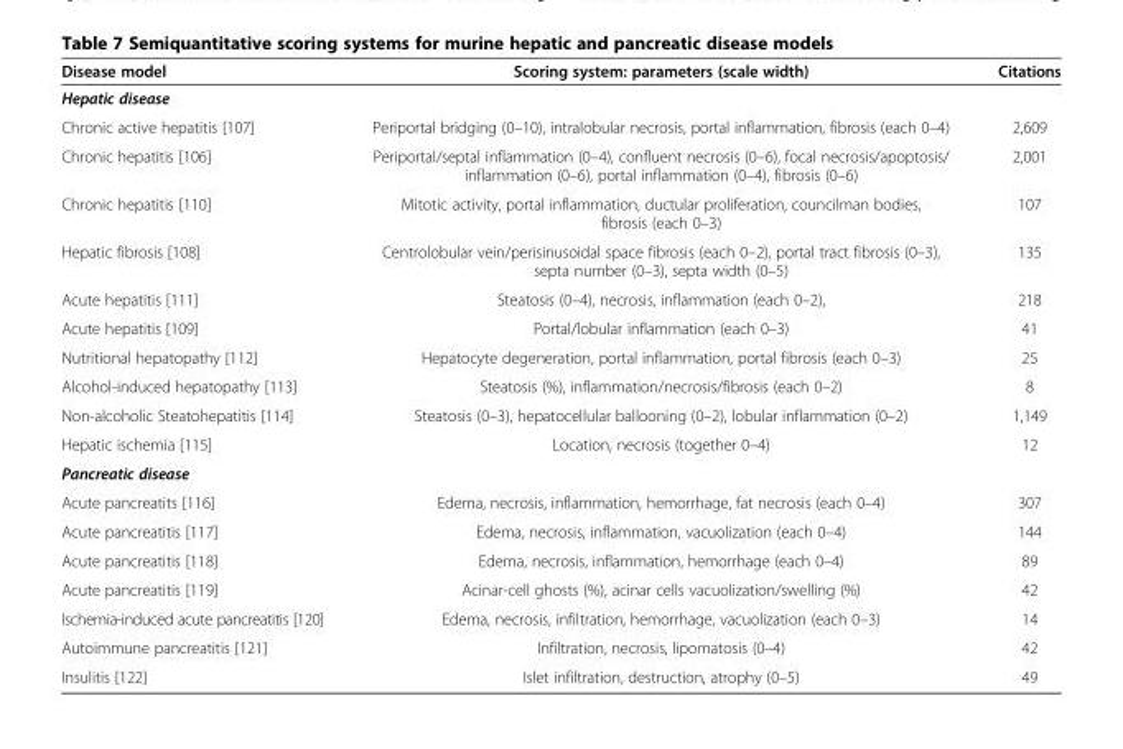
<table><thead><tr><td>Disease model</td><td>Scoring system: parameters (scale width)</td><td>Citations</td></tr></thead><tbody><tr><td colspan="3">Hepatic disease</td></tr><tr><td>Chronic active hepatitis [107]</td><td>Periportal bridging (0–10), intralobular necrosis, portal inflammation, fibrosis (each 0–4)</td><td>2,609</td></tr><tr><td>Chronic hepatitis [106]</td><td>Periportal/septal inflammation (0–4), confluent necrosis (0–6), focal necrosis/apoptosis/ inflammation (0–6), portal inflammation (0–4), fibrosis (0–6)</td><td>2,001</td></tr><tr><td>Chronic hepatitis [110]</td><td>Mitotic activity, portal inflammation, ductular proliferation, councilman bodies, fibrosis (each 0–3)</td><td>107</td></tr><tr><td>Hepatic fibrosis [108]</td><td>Centrolobular vein/perisinusoidal space fibrosis (each 0–2), portal tract fibrosis (0–3), septa number (0–3), septa width (0–5)</td><td>135</td></tr><tr><td>Acute hepatitis [111]</td><td>Steatosis (0–4), necrosis, inflammation (each 0–2),</td><td>218</td></tr><tr><td>Acute hepatitis [109]</td><td>Portal/lobular inflammation (each 0–3)</td><td>41</td></tr><tr><td>Nutritional hepatopathy [112]</td><td>Hepatocyte degeneration, portal inflammation, portal fibrosis (each 0–3)</td><td>25</td></tr><tr><td>Alcohol-induced hepatopathy [113]</td><td>Steatosis (%), inflammation/necrosis/fibrosis (each 0–2)</td><td>8</td></tr><tr><td>Non-alcoholic Steatohepatitis [114]</td><td>Steatosis (0–3), hepatocellular ballooning (0–2), lobular inflammation (0–2)</td><td>1,149</td></tr><tr><td>Hepatic ischemia [115]</td><td>Location, necrosis (together 0–4)</td><td>12</td></tr><tr><td colspan="3">Pancreatic disease</td></tr><tr><td>Acute pancreatits [116]</td><td>Edema, necrosis, inflammation, hemorrhage, fat necrosis (each 0–4)</td><td>307</td></tr><tr><td>Acute pancreatitis [117]</td><td>Edema, necrosis, inflammation, vacuolization (each 0–4)</td><td>144</td></tr><tr><td>Acute pancreatitis [118]</td><td>Edema, necrosis, inflammation, hemorrhage (each 0–4)</td><td>89</td></tr><tr><td>Acute pancreatitis [119]</td><td>Acinar-cell ghosts (%), acinar cells vacuolization/swelling (%)</td><td>42</td></tr><tr><td>Ischemia-induced acute pancreatitis [120]</td><td>Edema, necrosis, infiltration, hemorrhage, vacuolization (each 0–3)</td><td>14</td></tr><tr><td>Autoimmune pancreatitis [121]</td><td>Infiltration, necrosis, lipomatosis (0–4)</td><td>42</td></tr><tr><td>Insulitis [122]</td><td>Islet infiltration, destruction, atrophy (0–5)</td><td>49</td></tr></tbody></table>